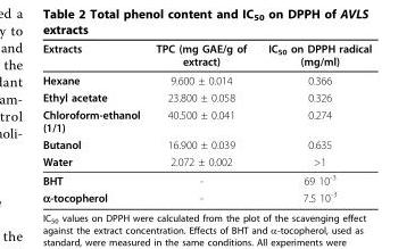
<table><thead><tr><td>Extracts</td><td>TPC (mg GAE/g of extract)</td><td>IC<sub>50</sub> on DPPH radical (mg/ml)</td></tr></thead><tbody><tr><td>Hexane</td><td>9.600 ± 0.014</td><td>0.366</td></tr><tr><td>Ethyl acetate</td><td>23.800 ± 0.058</td><td>0.326</td></tr><tr><td>Chloroform-ethanol (1/1)</td><td>40.500 ± 0.041</td><td>0.274</td></tr><tr><td>Butanol</td><td>16.900 ± 0.039</td><td>0.635</td></tr><tr><td>Water</td><td>2.072 ± 0.002</td><td>&gt;1</td></tr><tr><td>BHT</td><td>-</td><td>69 10<sup>-3</sup></td></tr><tr><td>α-tocopherol</td><td>-</td><td>7.5 10<sup>-3</sup></td></tr></tbody></table>